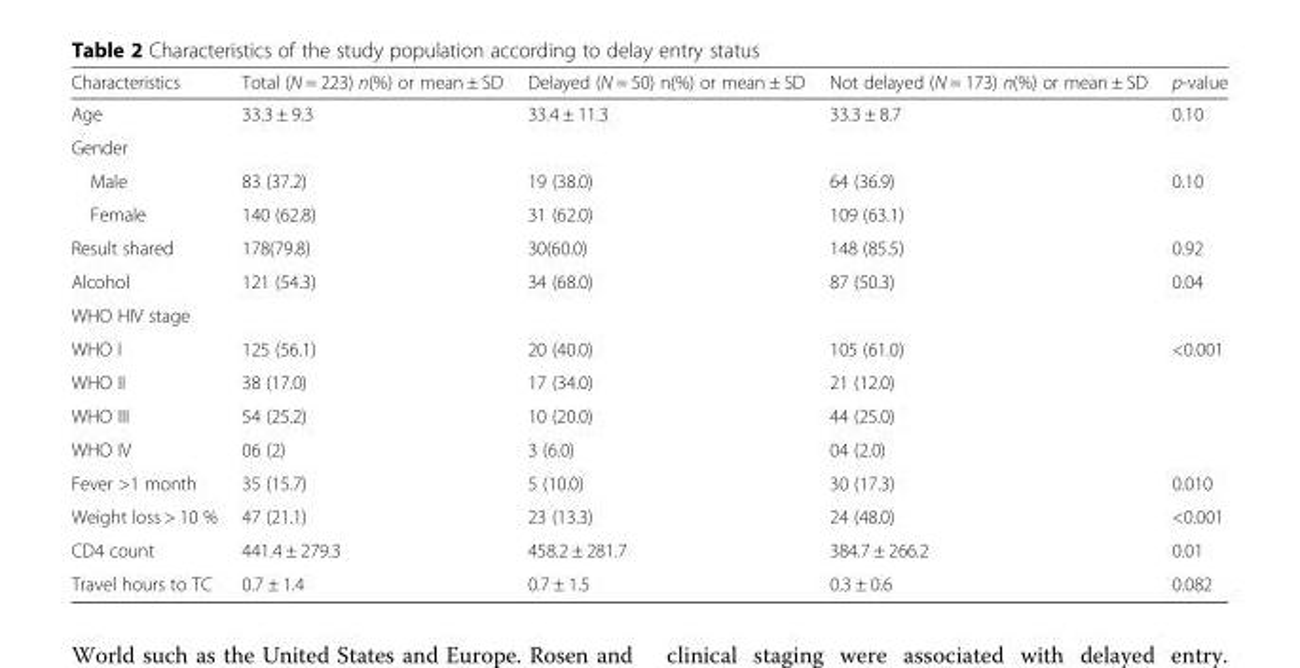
<table><thead><tr><td>Characteristics</td><td>Total (N = 223) n(%) or mean ± SD</td><td>Delayed (N = 50) n(%) or mean ± SD</td><td>Not delayed (N = 173) n(%) or mean ± SD</td><td>p-value</td></tr></thead><tbody><tr><td>Age</td><td>33.3 ± 9.3</td><td>33.4 ± 11.3</td><td>33.3 ± 8.7</td><td>0.10</td></tr><tr><td colspan="5">Gender</td></tr><tr><td>Male</td><td>83 (37.2)</td><td>19 (38.0)</td><td>64 (36.9)</td><td>0.10</td></tr><tr><td>Female</td><td>140 (62.8)</td><td>31 (62.0)</td><td>109 (63.1)</td><td></td></tr><tr><td>Result shared</td><td>178(79.8)</td><td>30(60.0)</td><td>148 (85.5)</td><td>0.92</td></tr><tr><td>Alcohol</td><td>121 (54.3)</td><td>34 (68.0)</td><td>87 (50.3)</td><td>0.04</td></tr><tr><td colspan="5">WHO HIV stage</td></tr><tr><td>WHO I</td><td>125 (56.1)</td><td>20 (40.0)</td><td>105 (61.0)</td><td>&lt;0.001</td></tr><tr><td>WHO II</td><td>38 (17.0)</td><td>17 (34.0)</td><td>21 (12.0)</td><td></td></tr><tr><td>WHO III</td><td>54 (25.2)</td><td>10 (20.0)</td><td>44 (25.0)</td><td></td></tr><tr><td>WHO IV</td><td>06 (2)</td><td>3 (6.0)</td><td>04 (2.0)</td><td></td></tr><tr><td>Fever &gt;1 month</td><td>35 (15.7)</td><td>5 (10.0)</td><td>30 (17.3)</td><td>0.010</td></tr><tr><td>Weight loss &gt; 10 %</td><td>47 (21.1)</td><td>23 (13.3)</td><td>24 (48.0)</td><td>&lt;0.001</td></tr><tr><td>CD4 count</td><td>441.4 ± 279.3</td><td>458.2 ± 281.7</td><td>384.7 ± 266.2</td><td>0.01</td></tr><tr><td>Travel hours to TC</td><td>0.7 ± 1.4</td><td>0.7 ± 1.5</td><td>0.3 ± 0.6</td><td>0.082</td></tr></tbody></table>